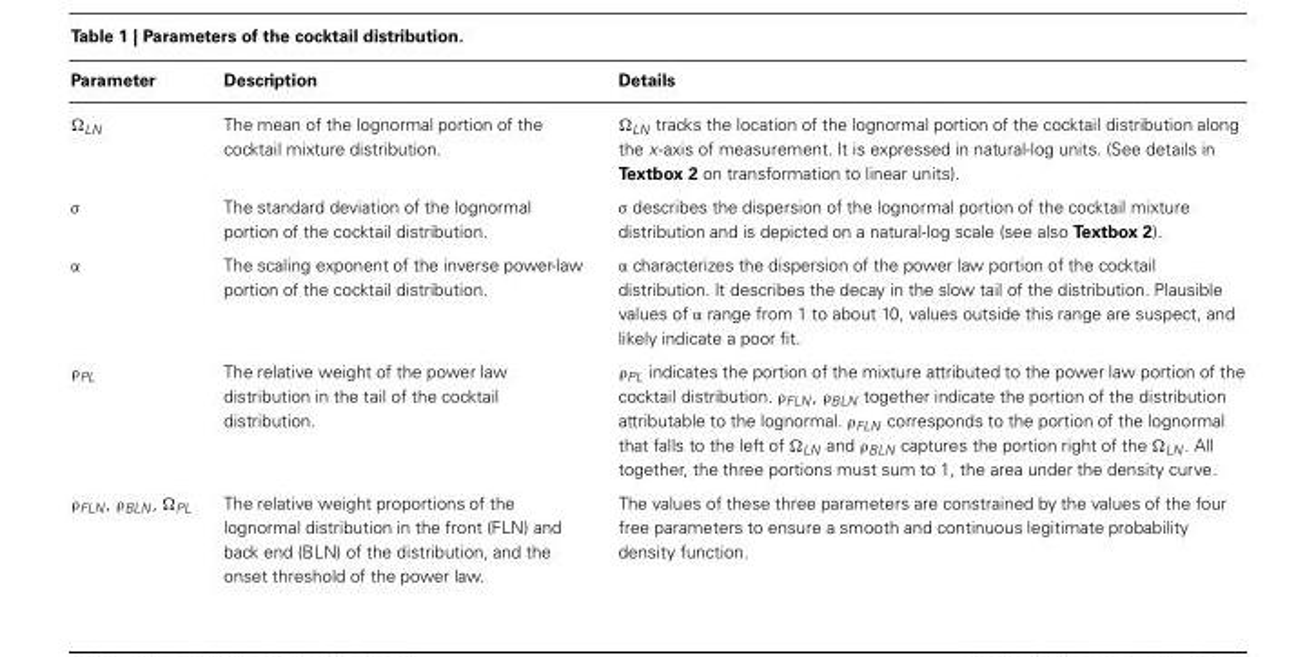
<table><thead><tr><td>Parameter</td><td>Description</td><td>Details</td></tr></thead><tbody><tr><td>Ω<sub>LN</sub></td><td>The mean of the lognormal portion of the cocktail mixture distribution.</td><td>Ω<sub>LN</sub> tracks the location of the lognormal portion of the cocktail distribution along the x-axis of measurement. It is expressed in natural-log units. (See details in Textbox 2 on transformation to linear units).</td></tr><tr><td>σ</td><td>The standard deviation of the lognormal portion of the cocktail distribution.</td><td>σ describes the dispersion of the lognormal portion of the cocktail mixture distribution and is depicted on a natural-log scale (see also Textbox 2).</td></tr><tr><td>α</td><td>The scaling exponent of the inverse power-law portion of the cocktail distribution.</td><td>α characterizes the dispersion of the power law portion of the cocktail distribution. It describes the decay in the slow tail of the distribution. Plausible values of α range from 1 to about 10, values outside this range are suspect, and likely indicate a poor fit.</td></tr><tr><td>ρ<sub>PL</sub></td><td>The relative weight of the power law distribution in the tail of the cocktail distribution.</td><td>ρ<sub>PL</sub> indicates the portion of the mixture attributed to the power law portion of the cocktail distribution. ρ<sub>FLN</sub>, ρ<sub>BLN</sub> together indicate the portion of the distribution attributable to the lognormal. ρ<sub>FLN</sub> corresponds to the portion of the lognormal that falls to the left of Ω<sub>LN</sub> and ρ<sub>BLN</sub> captures the portion right of the Ω<sub>LN</sub>. All together, the three portions must sum to 1, the area under the density curve.</td></tr><tr><td>ρ<sub>FLN</sub>, ρ<sub>BLN</sub>, Ω<sub>PL</sub></td><td>The relative weight proportions of the lognormal distribution in the front (FLN) and back end (BLN) of the distribution, and the onset threshold of the power law.</td><td>The values of these three parameters are constrained by the values of the four free parameters to ensure a smooth and continuous legitimate probability density function.</td></tr></tbody></table>